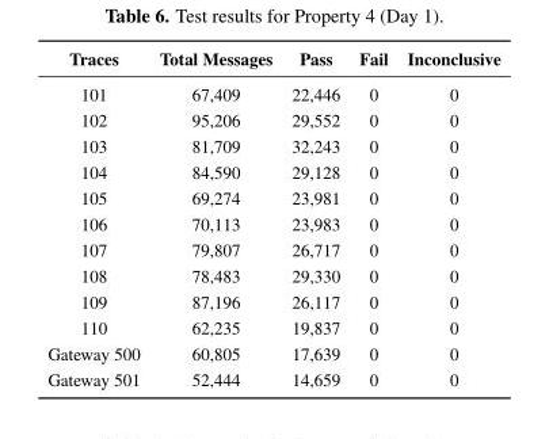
<table><thead><tr><td>Traces</td><td>Total Messages</td><td>Pass</td><td>Fail</td><td>Inconclusive</td></tr></thead><tbody><tr><td>101</td><td>67,409</td><td>22,446</td><td>0</td><td>0</td></tr><tr><td>102</td><td>95,206</td><td>29,552</td><td>0</td><td>0</td></tr><tr><td>103</td><td>81,709</td><td>32,243</td><td>0</td><td>0</td></tr><tr><td>104</td><td>84,590</td><td>29,128</td><td>0</td><td>0</td></tr><tr><td>105</td><td>69,274</td><td>23,981</td><td>0</td><td>0</td></tr><tr><td>106</td><td>70,113</td><td>23,983</td><td>0</td><td>0</td></tr><tr><td>107</td><td>79,807</td><td>26,717</td><td>0</td><td>0</td></tr><tr><td>108</td><td>78,483</td><td>29,330</td><td>0</td><td>0</td></tr><tr><td>109</td><td>87,196</td><td>26,117</td><td>0</td><td>0</td></tr><tr><td>110</td><td>62,235</td><td>19,837</td><td>0</td><td>0</td></tr><tr><td>Gateway 500</td><td>60,805</td><td>17,639</td><td>0</td><td>0</td></tr><tr><td>Gateway 501</td><td>52,444</td><td>14,659</td><td>0</td><td>0</td></tr></tbody></table>